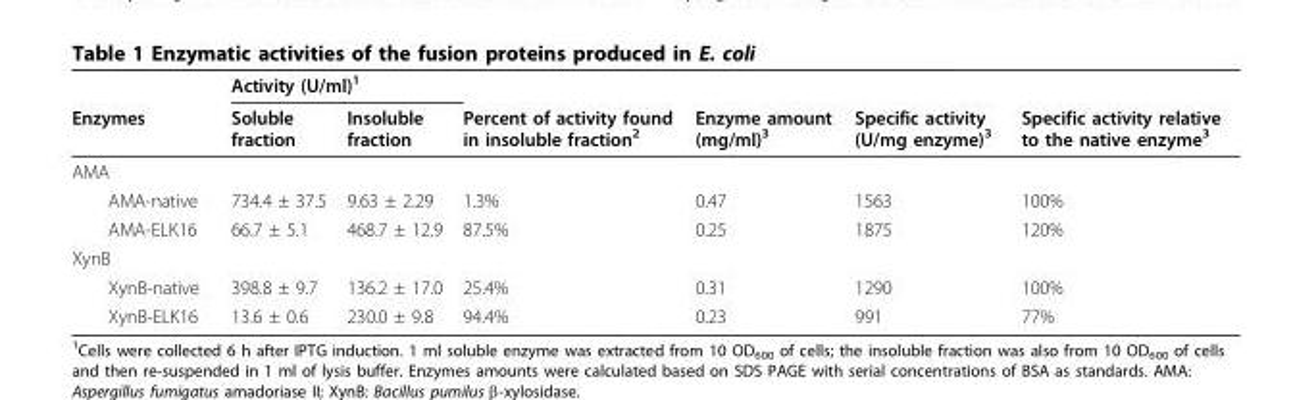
<table><thead><tr><td rowspan="2">Enzymes</td><td colspan="2">Activity (U/ml)<sup>1</sup></td><td rowspan="2">Percent of activity found in insoluble fraction<sup>2</sup></td><td rowspan="2">Enzyme amount (mg/ml)<sup>3</sup></td><td rowspan="2">Specific activity (U/mg enzyme)<sup>3</sup></td><td rowspan="2">Specific activity relative to the native enzyme<sup>3</sup></td></tr><tr><td>Soluble fraction</td><td>Insoluble fraction</td></tr></thead><tbody><tr><td colspan="7">AMA</td></tr><tr><td>AMA-native</td><td>734.4 ± 37.5</td><td>9.63 ± 2.29</td><td>1.3%</td><td>0.47</td><td>1563</td><td>100%</td></tr><tr><td>AMA-ELK16</td><td>66.7 ± 5.1</td><td>468.7 ± 12.9</td><td>87.5%</td><td>0.25</td><td>1875</td><td>120%</td></tr><tr><td colspan="7">XynB</td></tr><tr><td>XynB-native</td><td>398.8 ± 9.7</td><td>136.2 ± 17.0</td><td>25.4%</td><td>0.31</td><td>1290</td><td>100%</td></tr><tr><td>XynB-ELK16</td><td>13.6 ± 0.6</td><td>230.0 ± 9.8</td><td>94.4%</td><td>0.23</td><td>991</td><td>77%</td></tr></tbody></table>